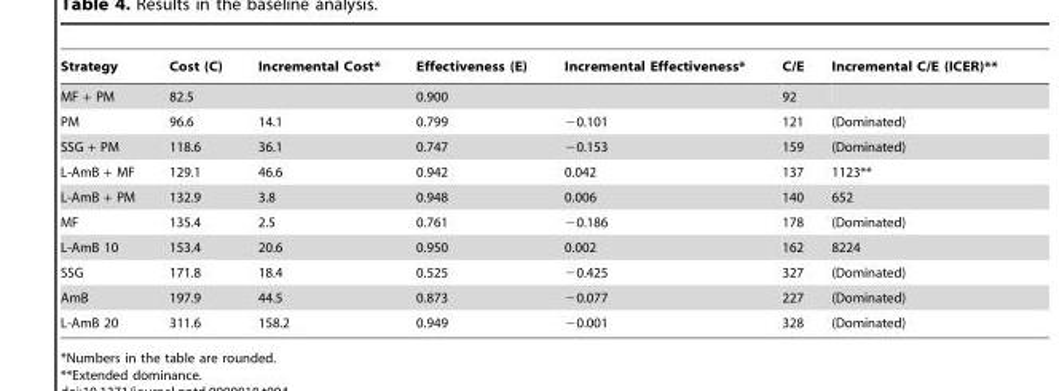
<table><thead><tr><td>Strategy</td><td>Cost (C)</td><td>Incremental Cost*</td><td>Effectiveness (E)</td><td>Incremental Effectiveness*</td><td>C/E</td><td>Incremental C/E (ICER)**</td></tr></thead><tbody><tr><td>MF + PM</td><td>82.5</td><td></td><td>0.900</td><td></td><td>92</td><td></td></tr><tr><td>PM</td><td>96.6</td><td>14.1</td><td>0.799</td><td>−0.101</td><td>121</td><td>(Dominated)</td></tr><tr><td>SSG + PM</td><td>118.6</td><td>36.1</td><td>0.747</td><td>−0.153</td><td>159</td><td>(Dominated)</td></tr><tr><td>L-AmB + MF</td><td>129.1</td><td>46.6</td><td>0.942</td><td>0.042</td><td>137</td><td>1123**</td></tr><tr><td>L-AmB + PM</td><td>132.9</td><td>3.8</td><td>0.948</td><td>0.006</td><td>140</td><td>652</td></tr><tr><td>MF</td><td>135.4</td><td>2.5</td><td>0.761</td><td>−0.186</td><td>178</td><td>(Dominated)</td></tr><tr><td>L-AmB 10</td><td>153.4</td><td>20.6</td><td>0.950</td><td>0.002</td><td>162</td><td>8224</td></tr><tr><td>SSG</td><td>171.8</td><td>18.4</td><td>0.525</td><td>−0.425</td><td>327</td><td>(Dominated)</td></tr><tr><td>AmB</td><td>197.9</td><td>44.5</td><td>0.873</td><td>−0.077</td><td>227</td><td>(Dominated)</td></tr><tr><td>L-AmB 20</td><td>311.6</td><td>158.2</td><td>0.949</td><td>−0.001</td><td>328</td><td>(Dominated)</td></tr></tbody></table>